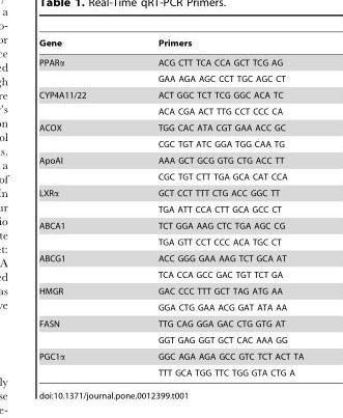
<table><thead><tr><td>Gene</td><td>Primers</td></tr></thead><tbody><tr><td rowspan="2">PPARα</td><td>ACG CTT TCA CCA GCT TCG AG</td></tr><tr><td>GAA AGA AGC CCT TGC AGC CT</td></tr><tr><td rowspan="2">CYP4A11/22</td><td>ACT GGC TCT TCG GGC ACA TC</td></tr><tr><td>ACA CGA ACT TTG CCT CCC CA</td></tr><tr><td rowspan="2">ACOX</td><td>TGG CAC ATA CGT GAA ACC GC</td></tr><tr><td>CGC TGT ATC GGA TGG CAA TG</td></tr><tr><td rowspan="2">ApoAI</td><td>AAA GCT GCG GTG CTG ACC TT</td></tr><tr><td>CGC TGT CTT TGA GCA CAT CCA</td></tr><tr><td rowspan="2">LXRα</td><td>GCT CCT TTT CTG ACC GGC TT</td></tr><tr><td>TGA ATT CCA CTT GCA GCC CT</td></tr><tr><td rowspan="2">ABCA1</td><td>TCT GGA AAG CTC TGA AGC CG</td></tr><tr><td>TGA GTT CCT CCC ACA TGC CT</td></tr><tr><td rowspan="2">ABCG1</td><td>ACC GGG GAA AAG TCT GCA AT</td></tr><tr><td>TCA CCA GCC GAC TGT TCT GA</td></tr><tr><td rowspan="2">HMGR</td><td>GAC CCC TTT GCT TAG ATG AA</td></tr><tr><td>GGA CTG GAA ACG GAT ATA AA</td></tr><tr><td rowspan="2">FASN</td><td>TTG CAG GGA GAC CTG GTG AT</td></tr><tr><td>GGT GAG GGT GCT CAC AAA GG</td></tr><tr><td rowspan="2">PGC1α</td><td>GGC AGA AGA GCC GTC TCT ACT TA</td></tr><tr><td>TTT GCA TGG TTC TGG GTA CTG A</td></tr></tbody></table>